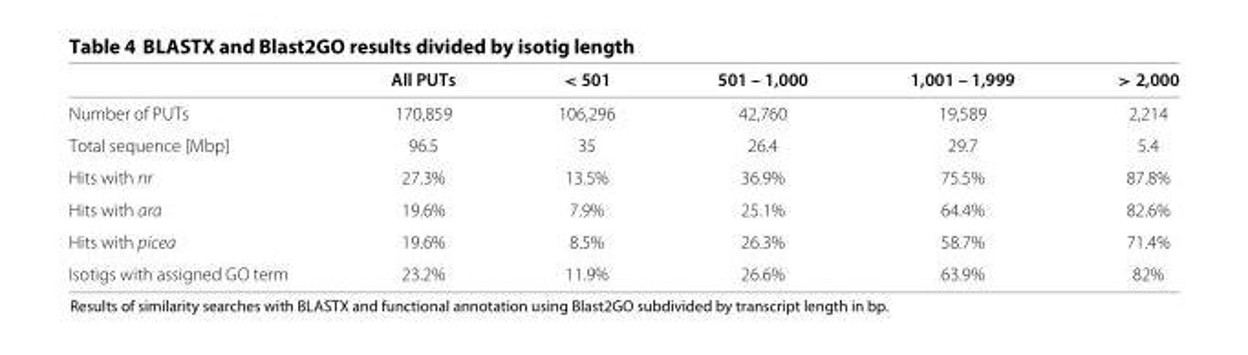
<table><thead><tr><td></td><td>All PUTs</td><td>&lt; 501</td><td>501 – 1,000</td><td>1,001 – 1,999</td><td>&gt; 2,000</td></tr></thead><tbody><tr><td>Number of PUTs</td><td>170,859</td><td>106,296</td><td>42,760</td><td>19,589</td><td>2,214</td></tr><tr><td>Total sequence [Mbp]</td><td>96.5</td><td>35</td><td>26.4</td><td>29.7</td><td>5.4</td></tr><tr><td>Hits with nr</td><td>27.3%</td><td>13.5%</td><td>36.9%</td><td>75.5%</td><td>87.8%</td></tr><tr><td>Hits with ara</td><td>19.6%</td><td>7.9%</td><td>25.1%</td><td>64.4%</td><td>82.6%</td></tr><tr><td>Hits with picea</td><td>19.6%</td><td>8.5%</td><td>26.3%</td><td>58.7%</td><td>71.4%</td></tr><tr><td>Isotigs with assigned GO term</td><td>23.2%</td><td>11.9%</td><td>26.6%</td><td>63.9%</td><td>82%</td></tr></tbody></table>